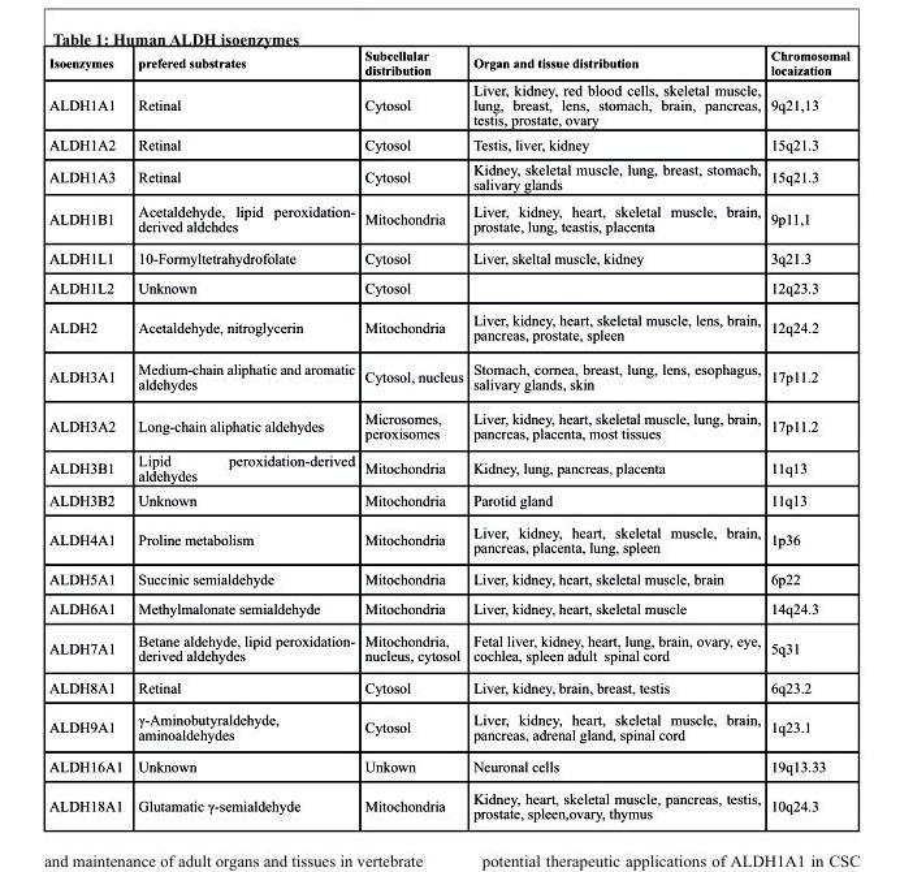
<table><thead><tr><td>Isoenzymes</td><td>prefered substrates</td><td>subcellular distribution</td><td>organ and tissue distribution</td><td>chromosomal locaization</td></tr></thead><tbody><tr><td>ALDH1A1</td><td>Retinal</td><td>Cytosol</td><td>Liver, kidney, red blood cells, skeletal muscle, lung, breast, lens, stomach, brain, pancreas, testis, prostate, ovary</td><td>9q21,13</td></tr><tr><td>ALDH1A2</td><td>Retinal</td><td>Cytosol</td><td>Testis, liver, kidney</td><td>15q21.3</td></tr><tr><td>ALDH1A3</td><td>Retinal</td><td>Cytosol</td><td>Kidney, skeletal muscle, lung, breast, stomach, salivary glands</td><td>15q21.3</td></tr><tr><td>ALDH1B1</td><td>Acetaldehyde, lipid peroxidation- derived aldehdes</td><td>Mitochondria</td><td>Liver, kidney, heart, skeletal muscle, brain, prostate, lung, teastis, placenta</td><td>9p11,1</td></tr><tr><td>ALDH1L1</td><td>10-Formyltetrahydrofolate</td><td>Cytosol</td><td>Liver, skeltal muscle, kidney</td><td>3q21.3</td></tr><tr><td>ALDH1L2</td><td>Unknown</td><td>Cytosol</td><td></td><td>12q23.3</td></tr><tr><td>ALDH2</td><td>Acetaldehyde, nitroglycerin</td><td>Mitochondria</td><td>Liver, kidney, heart, skeletal muscle, lens, brain, pancreas, prostate, spleen</td><td>12q24.2</td></tr><tr><td>ALDH3A1</td><td>Medium-chain aliphatic and aromatic aldehydes</td><td>Cytosol, nucleus</td><td>Stomach, cornea, breast, lung, lens, esophagus, salivary glands, skin</td><td>17p11.2</td></tr><tr><td>ALDH3A2</td><td>Long-chain aliphatic aldehydes</td><td>Microsomes, peroxisomes</td><td>Liver, kidney, heart, skeletal muscle, lung, brain, pancreas, placenta, most tissues</td><td>17p11.2</td></tr><tr><td>ALDH3B1</td><td>Lipid peroxidation-derived aldehydes</td><td>Mitochondria</td><td>Kidney, lung, pancreas, placenta</td><td>11q13</td></tr><tr><td>ALDH3B2</td><td>Unknown</td><td>Mitochondria</td><td>Parotid gland</td><td>11q13</td></tr><tr><td>ALDH4A1</td><td>Proline metabolism</td><td>Mitochondria</td><td>Liver, kidney, heart, skeletal muscle, brain, pancreas, placenta, lung, spleen</td><td>1p36</td></tr><tr><td>ALDH5A1</td><td>Succinic semialdehyde</td><td>Mitochondria</td><td>Liver, kidney, heart, skeletal muscle, brain</td><td>6p22</td></tr><tr><td>ALDH6A1</td><td>Methylmalonate semialdehyde</td><td>Mitochondria</td><td>Liver, kidney, heart, skeletal muscle</td><td>14q24.3</td></tr><tr><td>ALDH7A1</td><td>Betane aldehyde, lipid peroxidation- derived aldehydes</td><td>Mitochondria, nucleus, cytosol</td><td>Fetal liver, kidney, heart, lung, brain, ovary, eye, cochlea, spleen adult spinal cord</td><td>5q31</td></tr><tr><td>ALDH8A1</td><td>Retinal</td><td>Cytosol</td><td>Liver, kidney, brain, breast, testis</td><td>6q23.2</td></tr><tr><td>ALDH9A1</td><td>γ-Aminobutyraldehyde, aminoaldehydes</td><td>Cytosol</td><td>Liver, kidney, heart, skeletal muscle, brain, pancreas, adrenal gland, spinal cord</td><td>1q23.1</td></tr><tr><td>ALDH16A1</td><td>Unknown</td><td>Unkown</td><td>Neuronal cells</td><td>19q13.33</td></tr><tr><td>ALDH18A1</td><td>Glutamatic γ-semialdehyde</td><td>Mitochondria</td><td>Kidney, heart, skeletal muscle, pancreas, testis, prostate, spleen,ovary, thymus</td><td>10q24.3</td></tr></tbody></table>